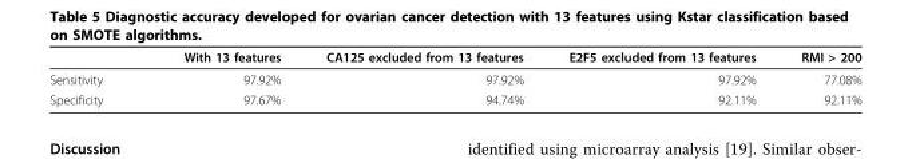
<table><thead><tr><td></td><td>With 13 features</td><td>CA125 excluded from 13 features</td><td>E2F5 excluded from 13 features</td><td>RMI &gt; 200</td></tr></thead><tbody><tr><td>Sensitivity</td><td>97.92%</td><td>97.92%</td><td>97.92%</td><td>77.08%</td></tr><tr><td>Specificity</td><td>97.67%</td><td>94.74%</td><td>92.11%</td><td>92.11%</td></tr></tbody></table>